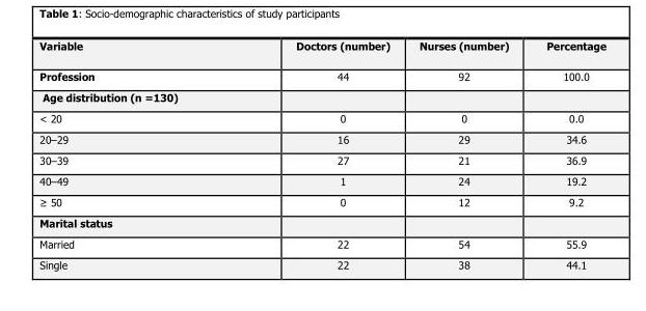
<table><thead><tr><td>Variable</td><td>Doctors (number)</td><td>Nurses (number)</td><td>Percentage</td></tr></thead><tbody><tr><td>Profession</td><td>44</td><td>92</td><td>100.0</td></tr><tr><td colspan="4">Age distribution (n =130)</td></tr><tr><td>&lt; 20</td><td>0</td><td>0</td><td>0.0</td></tr><tr><td>20–29</td><td>16</td><td>29</td><td>34.6</td></tr><tr><td>30–39</td><td>27</td><td>21</td><td>36.9</td></tr><tr><td>40–49</td><td>1</td><td>24</td><td>19.2</td></tr><tr><td>≥ 50</td><td>0</td><td>12</td><td>9.2</td></tr><tr><td colspan="4">Marital status</td></tr><tr><td>Married</td><td>22</td><td>54</td><td>55.9</td></tr><tr><td>Single</td><td>22</td><td>38</td><td>44.1</td></tr></tbody></table>